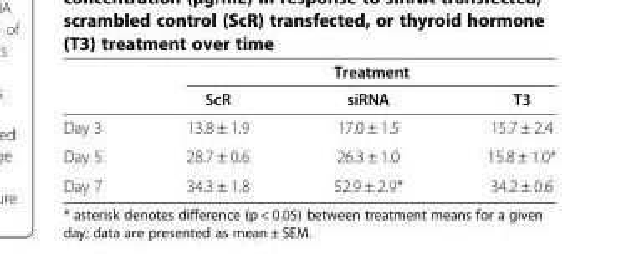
<table><thead><tr><td rowspan="2"></td><td colspan="3">Treatment</td></tr><tr><td>ScR</td><td>siRNA</td><td>T3</td></tr></thead><tbody><tr><td>Day 3</td><td>13.8 ± 1.9</td><td>17.0 ± 1.5</td><td>15.7 ± 2.4</td></tr><tr><td>Day 5</td><td>28.7 ± 0.6</td><td>26.3 ± 1.0</td><td>15.8 ± 1.0*</td></tr><tr><td>Day 7</td><td>34.3 ± 1.8</td><td>52.9 ± 2.9*</td><td>34.2 ± 0.6</td></tr></tbody></table>